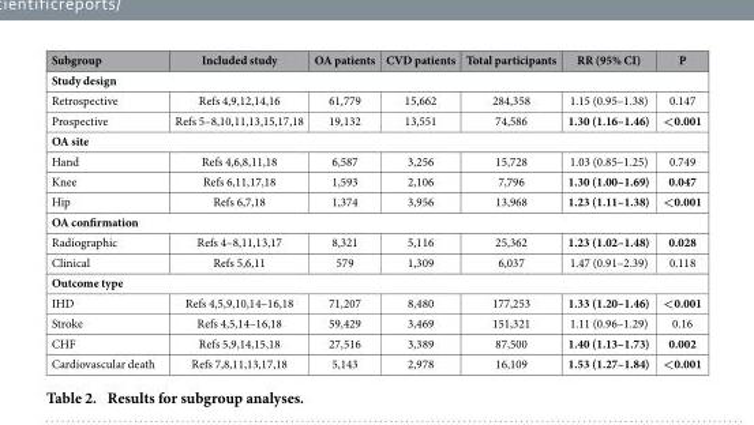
<table><thead><tr><td>Subgroup</td><td>Included study</td><td>OA patients</td><td>CVD patients</td><td>Total participants</td><td>RR (95% CI)</td><td>P</td></tr></thead><tbody><tr><td colspan="7">Study design</td></tr><tr><td>Retrospective</td><td>Refs 4,9,12,14,16</td><td>61,779</td><td>15,662</td><td>284,358</td><td>1.15 (0.95–1.38)</td><td>0.147</td></tr><tr><td>Prospective</td><td>Refs 5–8,10,11,13,15,17,18</td><td>19,132</td><td>13,551</td><td>74,586</td><td>1.30 (1.16–1.46)</td><td>&lt;0.001</td></tr><tr><td colspan="7">OA site</td></tr><tr><td>Hand</td><td>Refs 4,6,8,11,18</td><td>6,587</td><td>3,256</td><td>15,728</td><td>1.03 (0.85–1.25)</td><td>0.749</td></tr><tr><td>Knee</td><td>Refs 6,11,17,18</td><td>1,593</td><td>2,106</td><td>7,796</td><td>1.30 (1.00–1.69)</td><td>0.047</td></tr><tr><td>Hip</td><td>Refs 6,7,18</td><td>1,374</td><td>3,956</td><td>13,968</td><td>1.23 (1.11–1.38)</td><td>&lt;0.001</td></tr><tr><td colspan="7">OA confirmation</td></tr><tr><td>Radiographic</td><td>Refs 4–8,11,13,17</td><td>8,321</td><td>5,116</td><td>25,362</td><td>1.23 (1.02–1.48)</td><td>0.028</td></tr><tr><td>Clinical</td><td>Refs 5,6,11</td><td>579</td><td>1,309</td><td>6,037</td><td>1.47 (0.91–2.39)</td><td>0.118</td></tr><tr><td colspan="7">Outcome type</td></tr><tr><td>IHD</td><td>Refs 4,5,9,10,14–16,18</td><td>71,207</td><td>8,480</td><td>177,253</td><td>1.33 (1.20–1.46)</td><td>&lt;0.001</td></tr><tr><td>Stroke</td><td>Refs 4,5,14–16,18</td><td>59,429</td><td>3,469</td><td>151,321</td><td>1.11 (0.96–1.29)</td><td>0.16</td></tr><tr><td>CHF</td><td>Refs 5,9,14,15,18</td><td>27,516</td><td>3,389</td><td>87,500</td><td>1.40 (1.13–1.73)</td><td>0.002</td></tr><tr><td>Cardiovascular death</td><td>Refs 7,8,11,13,17,18</td><td>5,143</td><td>2,978</td><td>16,109</td><td>1.53 (1.27–1.84)</td><td>&lt;0.001</td></tr></tbody></table>